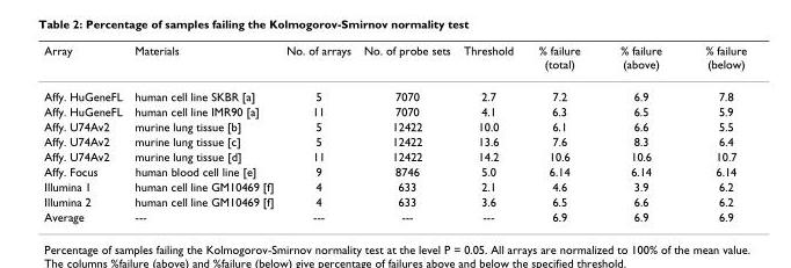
<table><thead><tr><td>Array</td><td>Materials</td><td>No. of arrays</td><td>No. of probe sets</td><td>Threshold</td><td>% failure (total)</td><td>% failure (above)</td><td>% failure (below)</td></tr></thead><tbody><tr><td>Affy. HuGeneFL</td><td>human cell line SKBR [a]</td><td>5</td><td>7070</td><td>2.7</td><td>7.2</td><td>6.9</td><td>7.8</td></tr><tr><td>Affy. HuGeneFL</td><td>human cell line IMR90 [a]</td><td>11</td><td>7070</td><td>4.1</td><td>6.3</td><td>6.5</td><td>5.9</td></tr><tr><td>Affy. U74Av2</td><td>murine lung tissue [b]</td><td>5</td><td>12422</td><td>10.0</td><td>6.1</td><td>6.6</td><td>5.5</td></tr><tr><td>Affy. U74Av2</td><td>murine lung tissue [c]</td><td>5</td><td>12422</td><td>13.6</td><td>7.6</td><td>8.3</td><td>6.4</td></tr><tr><td>Affy. U74Av2</td><td>murine lung tissue [d]</td><td>11</td><td>12422</td><td>14.2</td><td>10.6</td><td>10.6</td><td>10.7</td></tr><tr><td>Affy. Focus</td><td>human blood cell line [e]</td><td>9</td><td>8746</td><td>5.0</td><td>6.14</td><td>6.14</td><td>6.14</td></tr><tr><td>Illumina 1</td><td>human cell line GM10469 [f]</td><td>4</td><td>633</td><td>2.1</td><td>4.6</td><td>3.9</td><td>6.2</td></tr><tr><td>Illumina 2</td><td>human cell line GM10469 [f]</td><td>4</td><td>633</td><td>3.6</td><td>6.5</td><td>6.6</td><td>6.2</td></tr><tr><td>Average</td><td>---</td><td>---</td><td>---</td><td>---</td><td>6.9</td><td>6.9</td><td>6.9</td></tr></tbody></table>